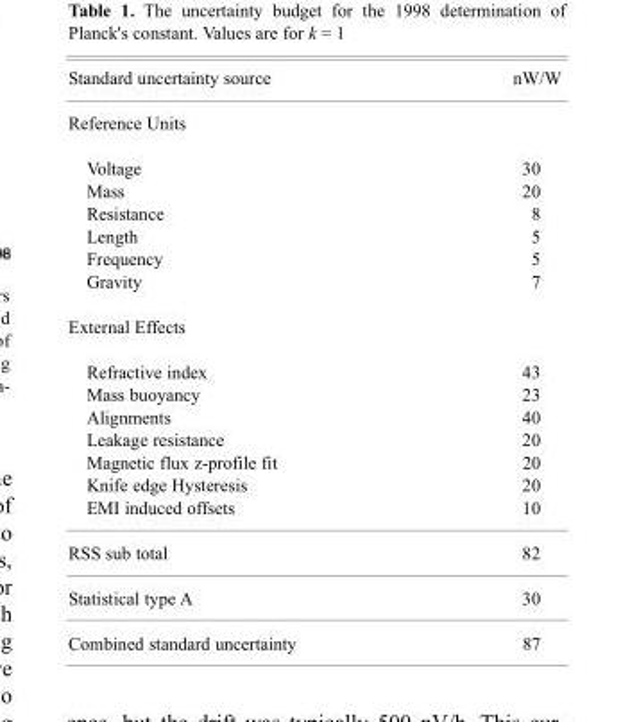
<table><thead><tr><td>Standard uncertainty source</td><td>nW/W</td></tr></thead><tbody><tr><td colspan="2">Reference Units</td></tr><tr><td>Voltage</td><td>30</td></tr><tr><td>Mass</td><td>20</td></tr><tr><td>Resistance</td><td>8</td></tr><tr><td>Length</td><td>5</td></tr><tr><td>Frequency</td><td>5</td></tr><tr><td>Gravity</td><td>7</td></tr><tr><td colspan="2">External Effects</td></tr><tr><td>Refractive index</td><td>43</td></tr><tr><td>Mass buoyancy</td><td>23</td></tr><tr><td>Alignments</td><td>40</td></tr><tr><td>Leakage resistance</td><td>20</td></tr><tr><td>Magnetic flux z-profile fit</td><td>20</td></tr><tr><td>Knife edge Hysteresis</td><td>20</td></tr><tr><td>EMI induced offsets</td><td>10</td></tr><tr><td>RSS sub total</td><td>82</td></tr><tr><td>Statistical type A</td><td>30</td></tr><tr><td>Combined standard uncertainty</td><td>87</td></tr></tbody></table>